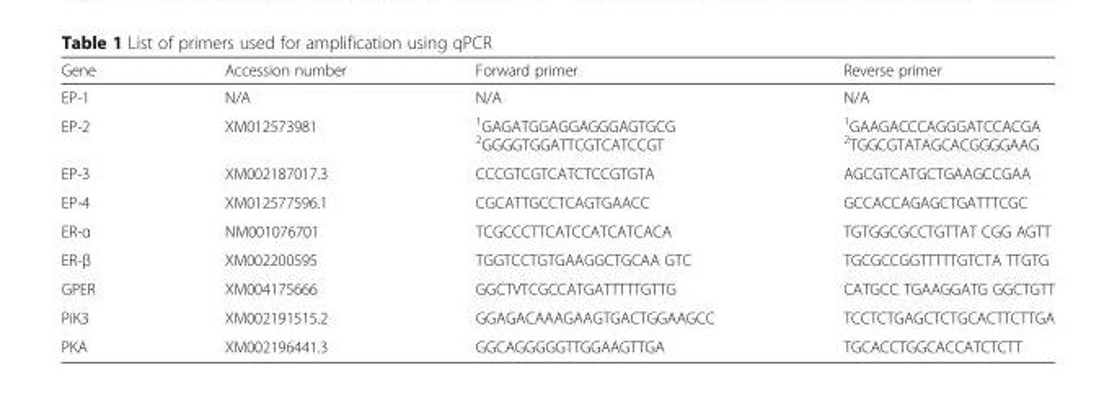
<table><thead><tr><td>Gene</td><td>Accession number</td><td>Forward primer</td><td>Reverse primer</td></tr></thead><tbody><tr><td>EP-1</td><td>N/A</td><td>N/A</td><td>N/A</td></tr><tr><td>EP-2</td><td>XM012573981</td><td><sup>1</sup>GAGATGGAGGAGGGAGTGCG <sup>2</sup>GGGGTGGATTCGTCATCCGT</td><td><sup>1</sup>GAAGACCCAGGGATCCACGA <sup>2</sup>TGGCGTATAGCACGGGGAAG</td></tr><tr><td>EP-3</td><td>XM002187017.3</td><td>CCCGTCGTCATCTCCGTGTA</td><td>AGCGTCATGCTGAAGCCGAA</td></tr><tr><td>EP-4</td><td>XM012577596.1</td><td>CGCATTGCCTCAGTGAACC</td><td>GCCACCAGAGCTGATTTCGC</td></tr><tr><td>ER-α</td><td>NM001076701</td><td>TCGCCCTTCATCCATCATCACA</td><td>TGTGGCGCCTGTTAT CGG AGTT</td></tr><tr><td>ER-β</td><td>XM002200595</td><td>TGGTCCTGTGAAGGCTGCAA GTC</td><td>TGCGCCGGTTTTTGTCTA TTGTG</td></tr><tr><td>GPER</td><td>XM004175666</td><td>GGCTVTCGCCATGATTTTTGTTG</td><td>CATGCC TGAAGGATG GGCTGTT</td></tr><tr><td>PiK3</td><td>XM002191515.2</td><td>GGAGACAAAGAAGTGACTGGAAGCC</td><td>TCCTCTGAGCTCTGCACTTCTTGA</td></tr><tr><td>PKA</td><td>XM002196441.3</td><td>GGCAGGGGGTTGGAAGTTGA</td><td>TGCACCTGGCACCATCTCTT</td></tr></tbody></table>